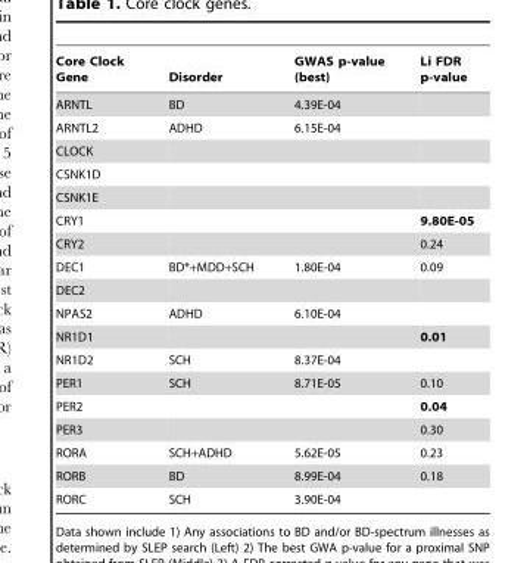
<table><thead><tr><td>Core Clock Gene</td><td>Disorder</td><td>GWAS p-value (best)</td><td>Li FDR p-value</td></tr></thead><tbody><tr><td>ARNTL</td><td>BD</td><td>4.39E-04</td><td></td></tr><tr><td>ARNTL2</td><td>ADHD</td><td>6.15E-04</td><td></td></tr><tr><td colspan="4">CLOCK</td></tr><tr><td colspan="4">CSNK1D</td></tr><tr><td colspan="4">CSNK1E</td></tr><tr><td>CRY1</td><td></td><td></td><td>9.80E-05</td></tr><tr><td>CRY2</td><td></td><td></td><td>0.24</td></tr><tr><td>DEC1</td><td>BD*+MDD+SCH</td><td>1.80E-04</td><td>0.09</td></tr><tr><td colspan="4">DEC2</td></tr><tr><td>NPAS2</td><td>ADHD</td><td>6.10E-04</td><td></td></tr><tr><td>NR1D1</td><td></td><td></td><td>0.01</td></tr><tr><td>NR1D2</td><td>SCH</td><td>8.37E-04</td><td></td></tr><tr><td>PER1</td><td>SCH</td><td>8.71E-05</td><td>0.10</td></tr><tr><td>PER2</td><td></td><td></td><td>0.04</td></tr><tr><td>PER3</td><td></td><td></td><td>0.30</td></tr><tr><td>RORA</td><td>SCH+ADHD</td><td>5.62E-05</td><td>0.23</td></tr><tr><td>RORB</td><td>BD</td><td>8.99E-04</td><td>0.18</td></tr><tr><td>RORC</td><td>SCH</td><td>3.90E-04</td><td></td></tr></tbody></table>